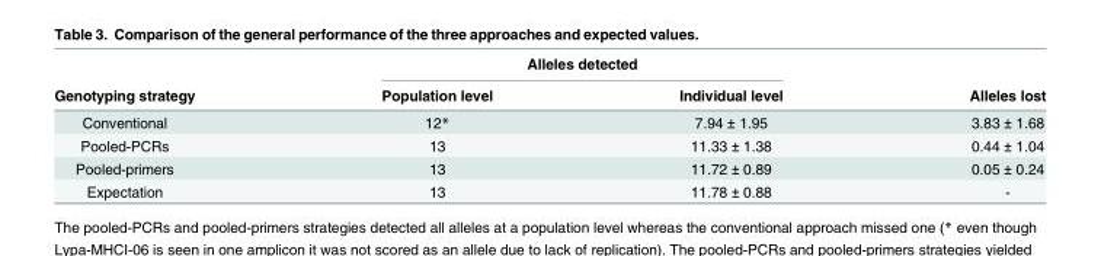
<table><thead><tr><td rowspan="2">Genotyping strategy</td><td colspan="2">Alleles detected</td><td rowspan="2">Alleles lost</td></tr><tr><td>Population level</td><td>Individual level</td></tr></thead><tbody><tr><td>Conventional</td><td>12*</td><td>7.94 ± 1.95</td><td>3.83 ± 1.68</td></tr><tr><td>Pooled-PCRs</td><td>13</td><td>11.33 ± 1.38</td><td>0.44 ± 1.04</td></tr><tr><td>Pooled-primers</td><td>13</td><td>11.72 ± 0.89</td><td>0.05 ± 0.24</td></tr><tr><td>Expectation</td><td>13</td><td>11.78 ± 0.88</td><td>-</td></tr></tbody></table>